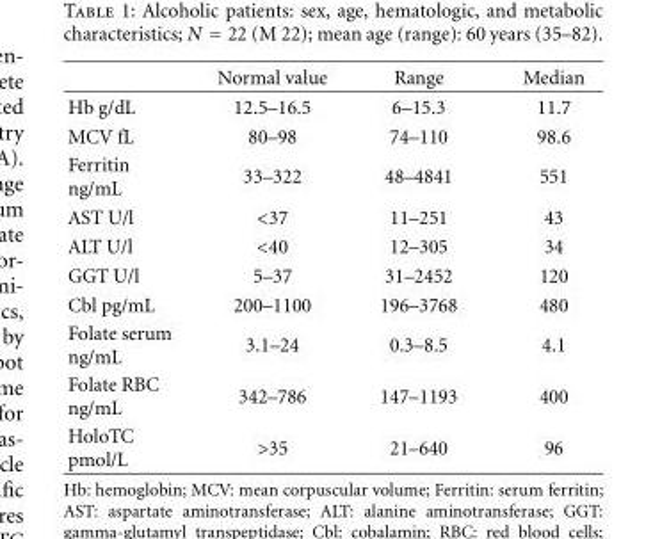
<table><thead><tr><td></td><td>Normal value</td><td>Range</td><td>Median</td></tr></thead><tbody><tr><td>Hb g/dL</td><td>12.5–16.5</td><td>6–15.3</td><td>11.7</td></tr><tr><td>MCV fL</td><td>80–98</td><td>74–110</td><td>98.6</td></tr><tr><td>Ferritin ng/mL</td><td>33–322</td><td>48–4841</td><td>551</td></tr><tr><td>AST U/l</td><td>&lt;37</td><td>11–251</td><td>43</td></tr><tr><td>ALT U/l</td><td>&lt;40</td><td>12–305</td><td>34</td></tr><tr><td>GGT U/l</td><td>5–37</td><td>31–2452</td><td>120</td></tr><tr><td>Cbl pg/mL</td><td>200–1100</td><td>196–3768</td><td>480</td></tr><tr><td>Folate serum ng/mL</td><td>3.1–24</td><td>0.3–8.5</td><td>4.1</td></tr><tr><td>Folate RBC ng/mL</td><td>342–786</td><td>147–1193</td><td>400</td></tr><tr><td>HoloTC pmol/L</td><td>&gt;35</td><td>21–640</td><td>96</td></tr></tbody></table>